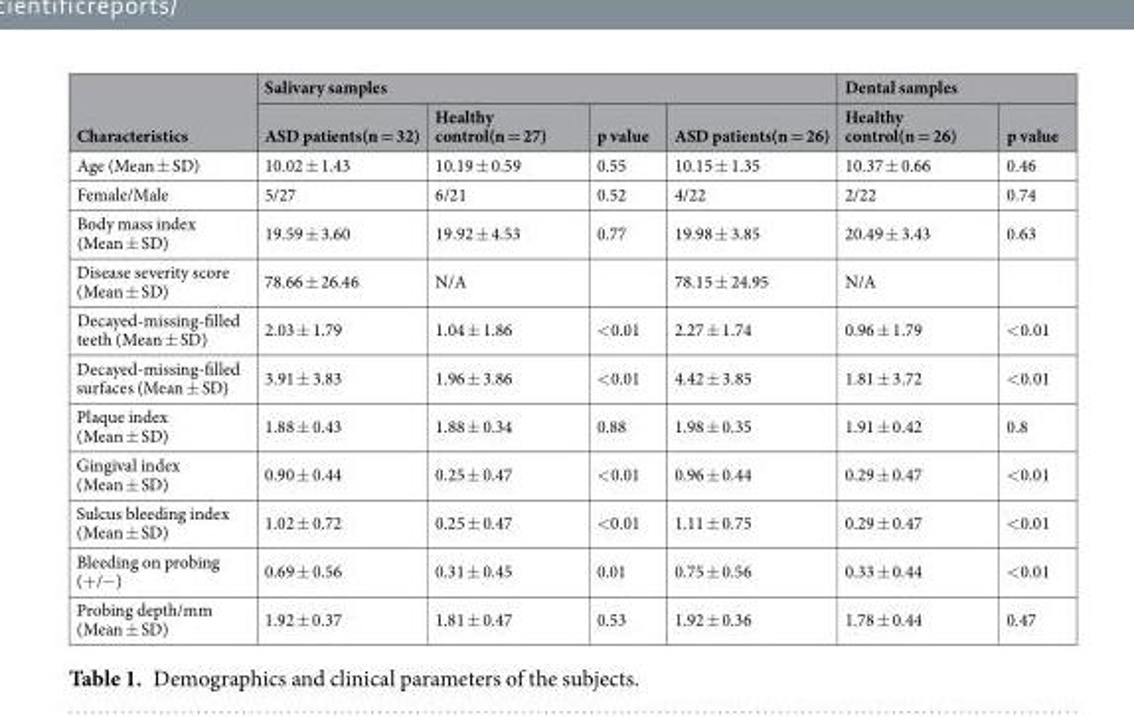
<table><thead><tr><td rowspan="2">Characteristics</td><td colspan="4">Salivary samples</td><td colspan="2">Dental samples</td></tr><tr><td>ASD patients(n = 32)</td><td>Healthy control(n = 27)</td><td>p value</td><td>ASD patients(n = 26)</td><td>Healthy control(n = 26)</td><td>p value</td></tr></thead><tbody><tr><td>Age (Mean ± SD)</td><td>10.02 ± 1.43</td><td>10.19 ± 0.59</td><td>0.55</td><td>10.15 ± 1.35</td><td>10.37 ± 0.66</td><td>0.46</td></tr><tr><td>Female/Male</td><td>5/27</td><td>6/21</td><td>0.52</td><td>4/22</td><td>2/22</td><td>0.74</td></tr><tr><td>Body mass index (Mean ± SD)</td><td>19.59 ± 3.60</td><td>19.92 ± 4.53</td><td>0.77</td><td>19.98 ± 3.85</td><td>20.49 ± 3.43</td><td>0.63</td></tr><tr><td>Disease severity score (Mean ± SD)</td><td>78.66 ± 26.46</td><td>N/A</td><td></td><td>78.15 ± 24.95</td><td>N/A</td><td></td></tr><tr><td>Decayed-missing-filled teeth (Mean ± SD)</td><td>2.03 ± 1.79</td><td>1.04 ± 1.86</td><td>&lt;0.01</td><td>2.27 ± 1.74</td><td>0.96 ± 1.79</td><td>&lt;0.01</td></tr><tr><td>Decayed-missing-filled surfaces (Mean ± SD)</td><td>3.91 ± 3.83</td><td>1.96 ± 3.86</td><td>&lt;0.01</td><td>4.42 ± 3.85</td><td>1.81 ± 3.72</td><td>&lt;0.01</td></tr><tr><td>Plaque index (Mean ± SD)</td><td>1.88 ± 0.43</td><td>1.88 ± 0.34</td><td>0.88</td><td>1.98 ± 0.35</td><td>1.91 ± 0.42</td><td>0.8</td></tr><tr><td>Gingival index (Mean ± SD)</td><td>0.90 ± 0.44</td><td>0.25 ± 0.47</td><td>&lt;0.01</td><td>0.96 ± 0.44</td><td>0.29 ± 0.47</td><td>&lt;0.01</td></tr><tr><td>Sulcus bleeding index (Mean ± SD)</td><td>1.02 ± 0.72</td><td>0.25 ± 0.47</td><td>&lt;0.01</td><td>1.11 ± 0.75</td><td>0.29 ± 0.47</td><td>&lt;0.01</td></tr><tr><td>Bleeding on probing (+/−)</td><td>0.69 ± 0.56</td><td>0.31 ± 0.45</td><td>0.01</td><td>0.75 ± 0.56</td><td>0.33 ± 0.44</td><td>&lt;0.01</td></tr><tr><td>Probing depth/mm (Mean ± SD)</td><td>1.92 ± 0.37</td><td>1.81 ± 0.47</td><td>0.53</td><td>1.92 ± 0.36</td><td>1.78 ± 0.44</td><td>0.47</td></tr></tbody></table>